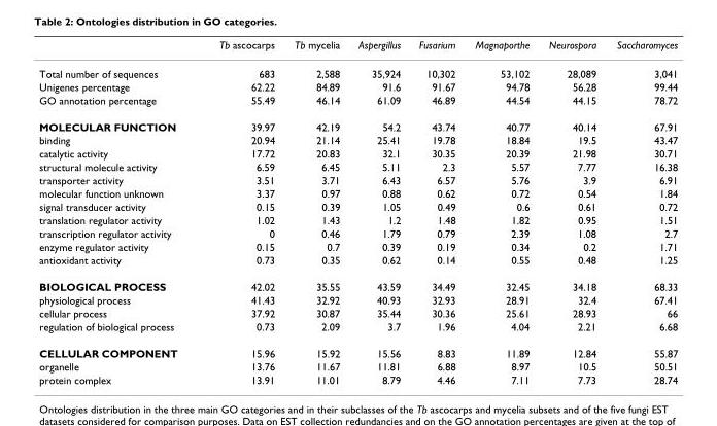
<table><thead><tr><td></td><td>Tb ascocarps</td><td>Tb mycelia</td><td>Aspergillus</td><td>Fusarium</td><td>Magnaporthe</td><td>Neurospora</td><td>Saccharomyces</td></tr></thead><tbody><tr><td>Total number of sequences</td><td>683</td><td>2,588</td><td>35,924</td><td>10,302</td><td>53,102</td><td>28,089</td><td>3,041</td></tr><tr><td>Unigenes percentage</td><td>62.22</td><td>84.89</td><td>91.6</td><td>91.67</td><td>94.78</td><td>56.28</td><td>99.44</td></tr><tr><td>GO annotation percentage</td><td>55.49</td><td>46.14</td><td>61.09</td><td>46.89</td><td>44.54</td><td>44.15</td><td>78.72</td></tr><tr><td>MOLECULAR FUNCTION</td><td>39.97</td><td>42.19</td><td>54.2</td><td>43.74</td><td>40.77</td><td>40.14</td><td>67.91</td></tr><tr><td>binding</td><td>20.94</td><td>21.14</td><td>25.41</td><td>19.78</td><td>18.84</td><td>19.5</td><td>43.47</td></tr><tr><td>catalytic activity</td><td>17.72</td><td>20.83</td><td>32.1</td><td>30.35</td><td>20.39</td><td>21.98</td><td>30.71</td></tr><tr><td>structural molecule activity</td><td>6.59</td><td>6.45</td><td>5.11</td><td>2.3</td><td>5.57</td><td>7.77</td><td>16.38</td></tr><tr><td>transporter activity</td><td>3.51</td><td>3.71</td><td>6.43</td><td>6.57</td><td>5.76</td><td>3.9</td><td>6.91</td></tr><tr><td>molecular function unknown</td><td>3.37</td><td>0.97</td><td>0.88</td><td>0.62</td><td>0.72</td><td>0.54</td><td>1.84</td></tr><tr><td>signal transducer activity</td><td>0.15</td><td>0.39</td><td>1.05</td><td>0.49</td><td>0.6</td><td>0.61</td><td>0.72</td></tr><tr><td>translation regulator activity</td><td>1.02</td><td>1.43</td><td>1.2</td><td>1.48</td><td>1.82</td><td>0.95</td><td>1.51</td></tr><tr><td>transcription regulator activity</td><td>0</td><td>0.46</td><td>1.79</td><td>0.79</td><td>2.39</td><td>1.08</td><td>2.7</td></tr><tr><td>enzyme regulator activity</td><td>0.15</td><td>0.7</td><td>0.39</td><td>0.19</td><td>0.34</td><td>0.2</td><td>1.71</td></tr><tr><td>antioxidant activity</td><td>0.73</td><td>0.35</td><td>0.62</td><td>0.14</td><td>0.55</td><td>0.48</td><td>1.25</td></tr><tr><td>BIOLOGICAL PROCESS</td><td>42.02</td><td>35.55</td><td>43.59</td><td>34.49</td><td>32.45</td><td>34.18</td><td>68.33</td></tr><tr><td>physiological process</td><td>41.43</td><td>32.92</td><td>40.93</td><td>32.93</td><td>28.91</td><td>32.4</td><td>67.41</td></tr><tr><td>cellular process</td><td>37.92</td><td>30.87</td><td>35.44</td><td>30.36</td><td>25.61</td><td>28.93</td><td>66</td></tr><tr><td>regulation of biological process</td><td>0.73</td><td>2.09</td><td>3.7</td><td>1.96</td><td>4.04</td><td>2.21</td><td>6.68</td></tr><tr><td>CELLULAR COMPONENT</td><td>15.96</td><td>15.92</td><td>15.56</td><td>8.83</td><td>11.89</td><td>12.84</td><td>55.87</td></tr><tr><td>organelle</td><td>13.76</td><td>11.67</td><td>11.81</td><td>6.88</td><td>8.97</td><td>10.5</td><td>50.51</td></tr><tr><td>protein complex</td><td>13.91</td><td>11.01</td><td>8.79</td><td>4.46</td><td>7.11</td><td>7.73</td><td>28.74</td></tr></tbody></table>